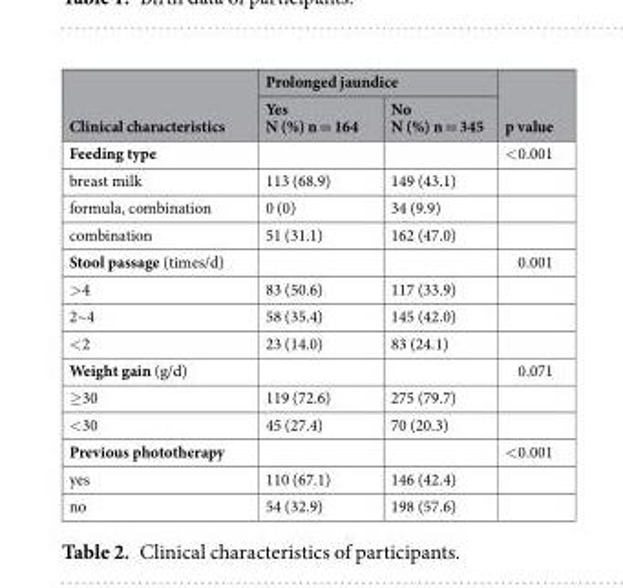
<table><thead><tr><td rowspan="2">Clinical characteristics</td><td colspan="2">Prolonged jaundice</td><td rowspan="2">p value</td></tr><tr><td>Yes N (%) n = 164</td><td>No N (%) n = 345</td></tr></thead><tbody><tr><td>Feeding type</td><td></td><td></td><td>&lt;0.001</td></tr><tr><td>breast milk</td><td>113 (68.9)</td><td>149 (43.1)</td><td></td></tr><tr><td>formula, combination</td><td>0 (0)</td><td>34 (9.9)</td><td></td></tr><tr><td>combination</td><td>51 (31.1)</td><td>162 (47.0)</td><td></td></tr><tr><td>Stool passage (times/d)</td><td></td><td></td><td>0.001</td></tr><tr><td>&gt;4</td><td>83 (50.6)</td><td>117 (33.9)</td><td></td></tr><tr><td>2~4</td><td>58 (35.4)</td><td>145 (42.0)</td><td></td></tr><tr><td>&lt;2</td><td>23 (14.0)</td><td>83 (24.1)</td><td></td></tr><tr><td>Weight gain (g/d)</td><td></td><td></td><td>0.071</td></tr><tr><td>≥30</td><td>119 (72.6)</td><td>275 (79.7)</td><td></td></tr><tr><td>&lt;30</td><td>45 (27.4)</td><td>70 (20.3)</td><td></td></tr><tr><td>Previous phototherapy</td><td></td><td></td><td>&lt;0.001</td></tr><tr><td>yes</td><td>110 (67.1)</td><td>146 (42.4)</td><td></td></tr><tr><td>no</td><td>54 (32.9)</td><td>198 (57.6)</td><td></td></tr></tbody></table>